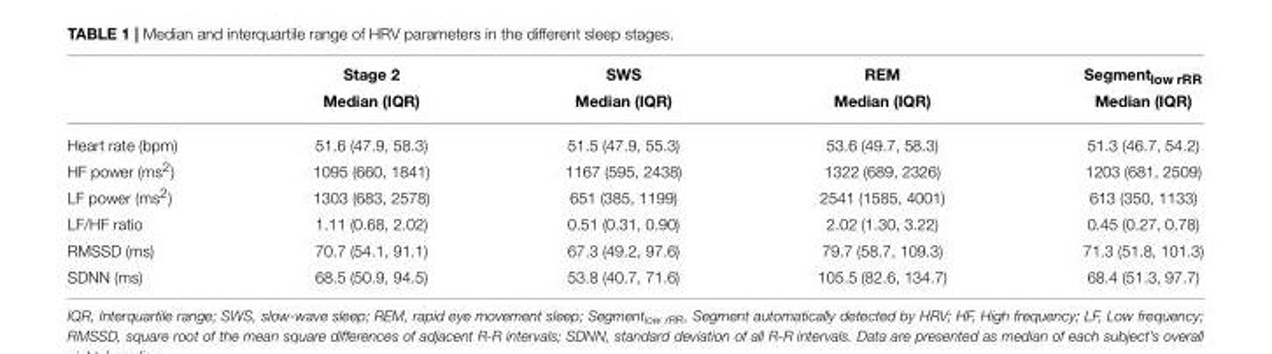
<table><thead><tr><td></td><td>Stage 2 Median (IQR)</td><td>SWS Median (IQR)</td><td>REM Median (IQR)</td><td>Segment<sub>low rRR</sub> Median (IQR)</td></tr></thead><tbody><tr><td>Heart rate (bpm)</td><td>51.6 (47.9, 58.3)</td><td>51.5 (47.9, 55.3)</td><td>53.6 (49.7, 58.3)</td><td>51.3 (46.7, 54.2)</td></tr><tr><td>HF power (ms<sup>2</sup>)</td><td>1095 (660, 1841)</td><td>1167 (595, 2438)</td><td>1322 (689, 2326)</td><td>1203 (681, 2509)</td></tr><tr><td>LF power (ms<sup>2</sup>)</td><td>1303 (683, 2578)</td><td>651 (385, 1199)</td><td>2541 (1585, 4001)</td><td>613 (350, 1133)</td></tr><tr><td>LF/HF ratio</td><td>1.11 (0.68, 2.02)</td><td>0.51 (0.31, 0.90)</td><td>2.02 (1.30, 3.22)</td><td>0.45 (0.27, 0.78)</td></tr><tr><td>RMSSD (ms)</td><td>70.7 (54.1, 91.1)</td><td>67.3 (49.2, 97.6)</td><td>79.7 (58.7, 109.3)</td><td>71.3 (51.8, 101.3)</td></tr><tr><td>SDNN (ms)</td><td>68.5 (50.9, 94.5)</td><td>53.8 (40.7, 71.6)</td><td>105.5 (82.6, 134.7)</td><td>68.4 (51.3, 97.7)</td></tr></tbody></table>